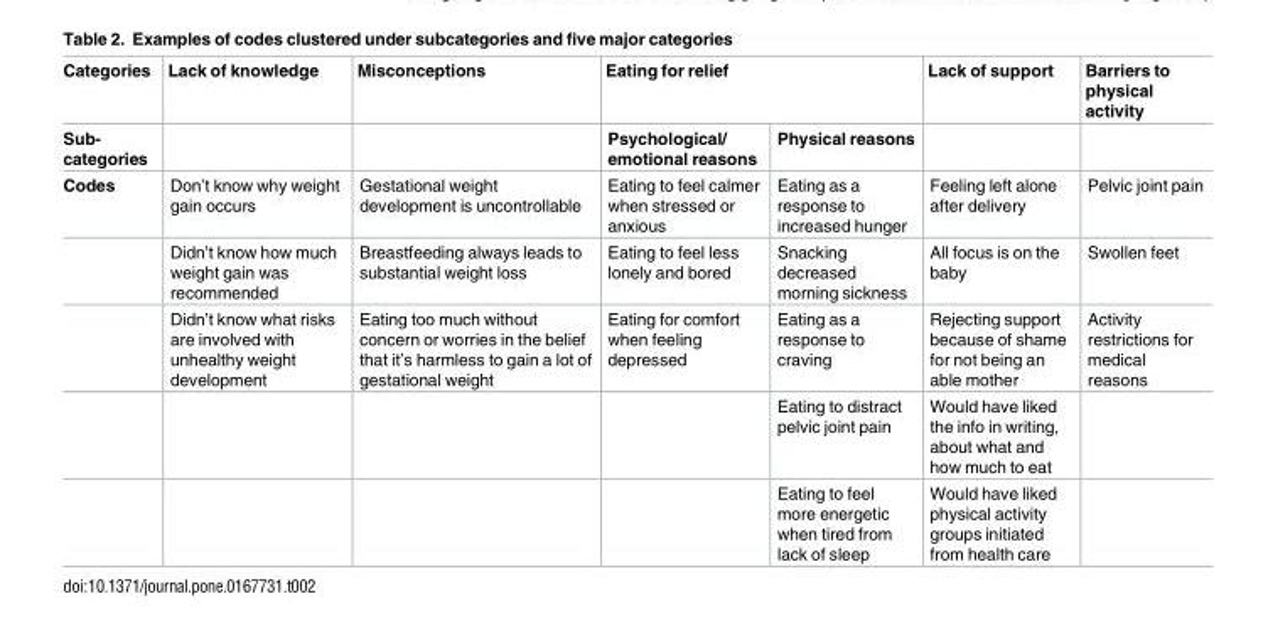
<table><thead><tr><td rowspan="2">Categories Sub- categories</td><td rowspan="2">Lack of knowledge</td><td rowspan="2">Misconceptions</td><td colspan="2">Eating for relief</td><td rowspan="2">Lack of support</td><td rowspan="2">Barriers to physical activity</td></tr><tr><td>Psychological/ emotional reasons</td><td>Physical reasons</td></tr></thead><tbody><tr><td rowspan="5">Codes</td><td>Don’t know why weight gain occurs</td><td>Gestational weight development is uncontrollable</td><td>Eating to feel calmer when stressed or anxious</td><td>Eating as a response to increased hunger</td><td>Feeling left alone after delivery</td><td>Pelvic joint pain</td></tr><tr><td>Didn’t know how much weight gain was recommended</td><td>Breastfeeding always leads to substantial weight loss</td><td>Eating to feel less lonely and bored</td><td>Snacking decreased morning sickness</td><td>All focus is on the baby</td><td>Swollen feet</td></tr><tr><td>Didn’t know what risks are involved with unhealthy weight development</td><td>Eating too much without concern or worries in the belief that it’s harmless to gain a lot of gestational weight</td><td>Eating for comfort when feeling depressed</td><td>Eating as a response to craving</td><td>Rejecting support because of shame for not being an able mother</td><td>Activity restrictions for medical reasons</td></tr><tr><td></td><td></td><td></td><td>Eating to distract pelvic joint pain</td><td>Would have liked the info in writing, about what and how much to eat</td><td></td></tr><tr><td></td><td></td><td></td><td>Eating to feel more energetic when tired from lack of sleep</td><td>Would have liked physical activity groups initiated from health care</td><td></td></tr></tbody></table>